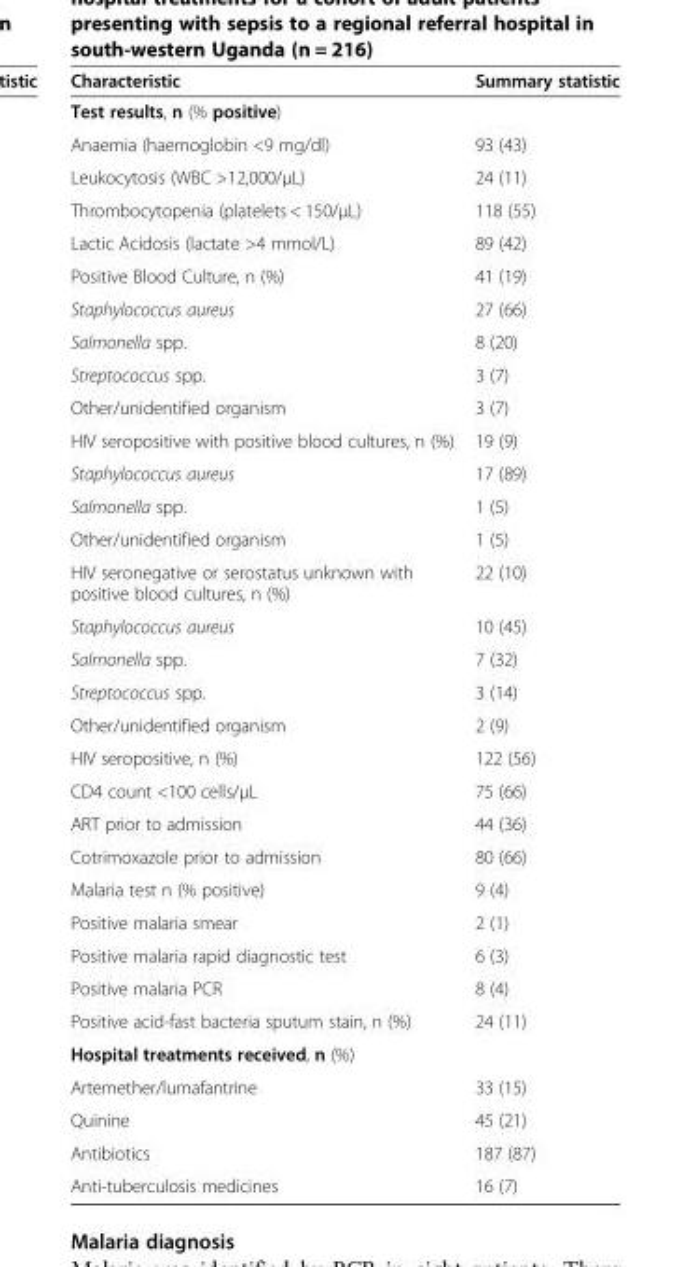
<table><thead><tr><td>Characteristic</td><td>Summary statistic</td></tr></thead><tbody><tr><td colspan="2">Test results, n (% positive)</td></tr><tr><td>Anaemia (haemoglobin &lt;9 mg/dl)</td><td>93 (43)</td></tr><tr><td>Leukocytosis (WBC &gt;12,000/μL)</td><td>24 (11)</td></tr><tr><td>Thrombocytopenia (platelets &lt; 150/μL)</td><td>118 (55)</td></tr><tr><td>Lactic Acidosis (lactate &gt;4 mmol/L)</td><td>89 (42)</td></tr><tr><td>Positive Blood Culture, n (%)</td><td>41 (19)</td></tr><tr><td>Staphylococcus aureus</td><td>27 (66)</td></tr><tr><td>Salmonella spp.</td><td>8 (20)</td></tr><tr><td>Streptococcus spp.</td><td>3 (7)</td></tr><tr><td>Other/unidentified organism</td><td>3 (7)</td></tr><tr><td>HIV seropositive with positive blood cultures, n (%)</td><td>19 (9)</td></tr><tr><td>Staphylococcus aureus</td><td>17 (89)</td></tr><tr><td>Salmonella spp.</td><td>1 (5)</td></tr><tr><td>Other/unidentified organism</td><td>1 (5)</td></tr><tr><td>HIV seronegative or serostatus unknown with positive blood cultures, n (%)</td><td>22 (10)</td></tr><tr><td>Staphylococcus aureus</td><td>10 (45)</td></tr><tr><td>Salmonella spp.</td><td>7 (32)</td></tr><tr><td>Streptococcus spp.</td><td>3 (14)</td></tr><tr><td>Other/unidentified organism</td><td>2 (9)</td></tr><tr><td>HIV seropositive, n (%)</td><td>122 (56)</td></tr><tr><td>CD4 count &lt;100 cells/μL</td><td>75 (66)</td></tr><tr><td>ART prior to admission</td><td>44 (36)</td></tr><tr><td>Cotrimoxazole prior to admission</td><td>80 (66)</td></tr><tr><td>Malaria test n (% positive)</td><td>9 (4)</td></tr><tr><td>Positive malaria smear</td><td>2 (1)</td></tr><tr><td>Positive malaria rapid diagnostic test</td><td>6 (3)</td></tr><tr><td>Positive malaria PCR</td><td>8 (4)</td></tr><tr><td>Positive acid-fast bacteria sputum stain, n (%)</td><td>24 (11)</td></tr><tr><td colspan="2">Hospital treatments received, n (%)</td></tr><tr><td>Artemether/lumafantrine</td><td>33 (15)</td></tr><tr><td>Quinine</td><td>45 (21)</td></tr><tr><td>Antibiotics</td><td>187 (87)</td></tr><tr><td>Anti-tuberculosis medicines</td><td>16 (7)</td></tr></tbody></table>